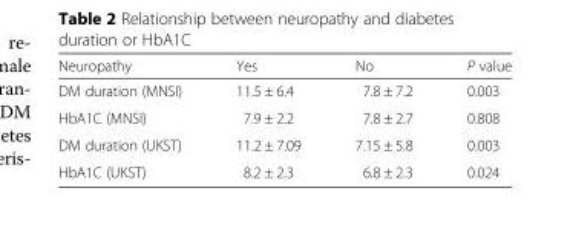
<table><thead><tr><td>Neuropathy</td><td>Yes</td><td>No</td><td>P value</td></tr></thead><tbody><tr><td>DM duration (MNSI)</td><td>11.5 ± 6.4</td><td>7.8 ± 7.2</td><td>0.003</td></tr><tr><td>HbA1C (MNSI)</td><td>7.9 ± 2.2</td><td>7.8 ± 2.7</td><td>0.808</td></tr><tr><td>DM duration (UKST)</td><td>11.2 ± 7.09</td><td>7.15 ± 5.8</td><td>0.003</td></tr><tr><td>HbA1C (UKST)</td><td>8.2 ± 2.3</td><td>6.8 ± 2.3</td><td>0.024</td></tr></tbody></table>